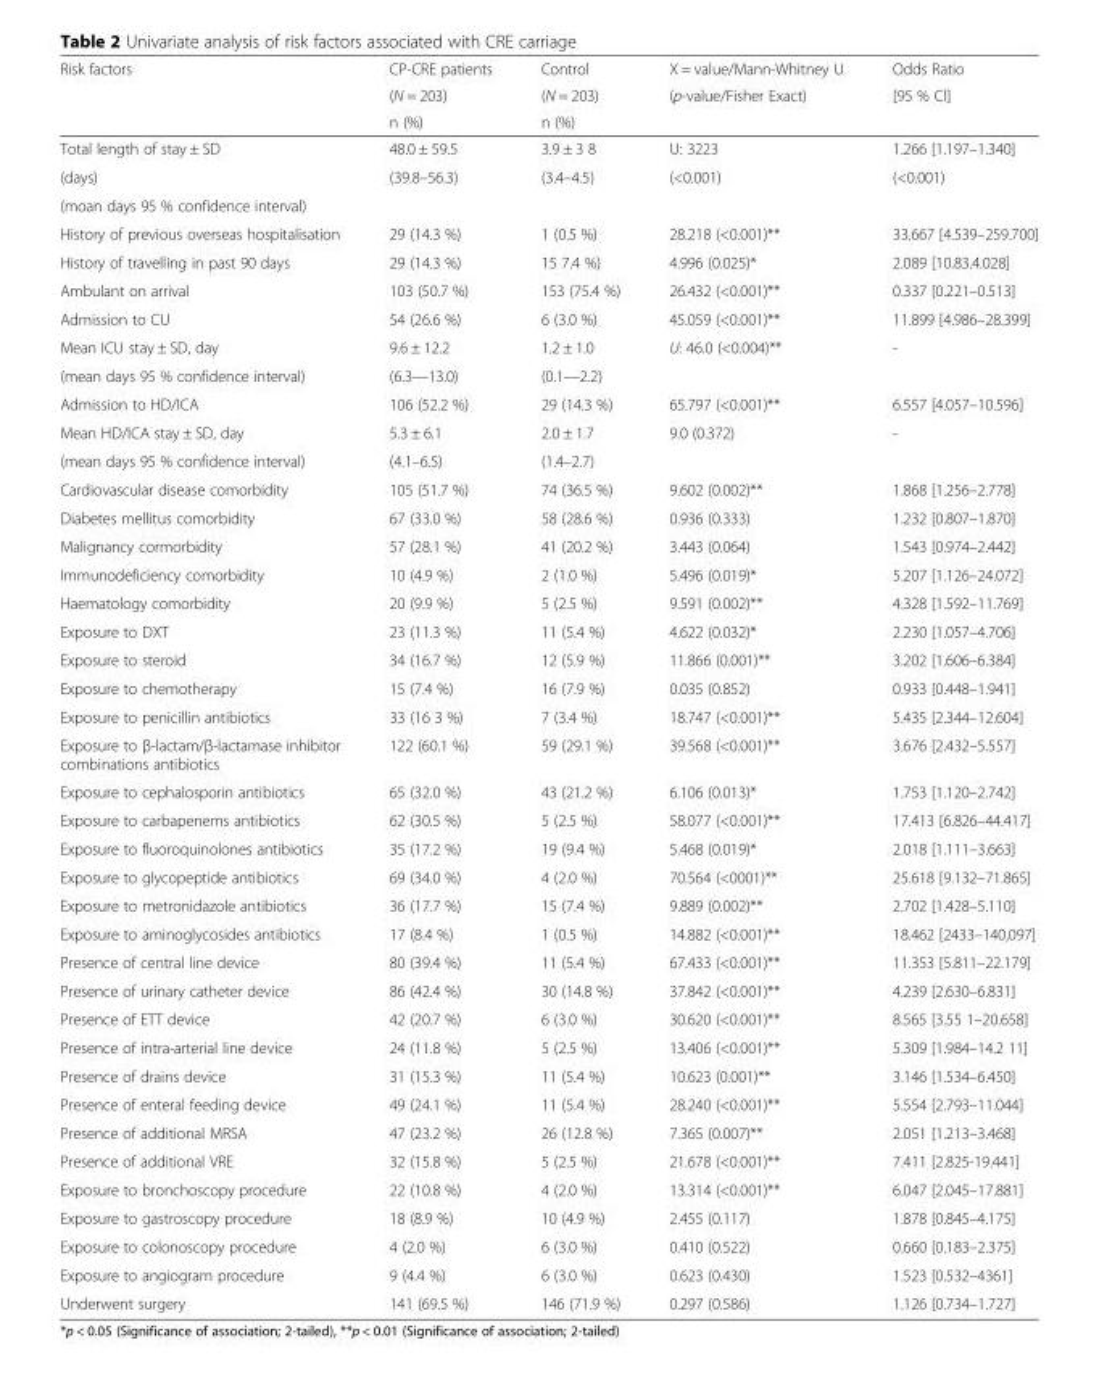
<table><thead><tr><td rowspan="3">Risk factors</td><td rowspan="3">CP-CRE patients (N = 203) n (%)</td><td rowspan="3">Control (N = 203) n (%)</td><td rowspan="3">X = value/Mann-Whitney U (p-value/Fisher Exact)</td><td rowspan="3">Odds Ratio [95 % Cl]</td></tr><tr></tr><tr></tr></thead><tbody><tr><td>Total length of stay ± SD</td><td>48.0 ± 59.5</td><td>3.9 ± 3 8</td><td>U: 3223</td><td>1.266 [1.197–1.340]</td></tr><tr><td>(days)</td><td>(39.8–56.3)</td><td>(3.4–4.5)</td><td>(&lt;0.001)</td><td>(&lt;0.001)</td></tr><tr><td colspan="5">(moan days 95 % confidence interval)</td></tr><tr><td>History of previous overseas hospitalisation</td><td>29 (14.3 %)</td><td>1 (0.5 %)</td><td>28.218 (&lt;0.001)**</td><td>33.667 [4.539–259.700]</td></tr><tr><td>History of travelling in past 90 days</td><td>29 (14.3 %)</td><td>15 7.4 %)</td><td>4.996 (0.025)*</td><td>2.089 [10.83.4.028]</td></tr><tr><td>Ambulant on arrival</td><td>103 (50.7 %)</td><td>153 (75.4 %)</td><td>26.432 (&lt;0.001)**</td><td>0.337 [0.221–0.513]</td></tr><tr><td>Admission to CU</td><td>54 (26.6 %)</td><td>6 (3.0 %)</td><td>45.059 (&lt;0.001)**</td><td>11.899 [4.986–28.399]</td></tr><tr><td>Mean ICU stay ± SD, day</td><td>9.6 ± 12.2</td><td>1.2 ± 1.0</td><td>U: 46.0 (&lt;0.004)**</td><td>-</td></tr><tr><td>(mean days 95 % confidence interval)</td><td>(6.3—13.0)</td><td>(0.1—2.2)</td><td></td><td></td></tr><tr><td>Admission to HD/ICA</td><td>106 (52.2 %)</td><td>29 (14.3 %)</td><td>65.797 (&lt;0.001)**</td><td>6.557 [4.057–10.596]</td></tr><tr><td>Mean HD/ICA stay ± SD, day</td><td>5.3 ± 6.1</td><td>2.0 ± 1.7</td><td>9.0 (0.372)</td><td>-</td></tr><tr><td>(mean days 95 % confidence interval)</td><td>(4.1–6.5)</td><td>(1.4–2.7)</td><td></td><td></td></tr><tr><td>Cardiovascular disease comorbidity</td><td>105 (51.7 %)</td><td>74 (36.5 %)</td><td>9.602 (0.002)**</td><td>1.868 [1.256–2.778]</td></tr><tr><td>Diabetes mellitus comorbidity</td><td>67 (33.0 %)</td><td>58 (28.6 %)</td><td>0.936 (0.333)</td><td>1.232 [0.807–1.870]</td></tr><tr><td>Malignancy cormorbidity</td><td>57 (28.1 %)</td><td>41 (20.2 %)</td><td>3.443 (0.064)</td><td>1.543 [0.974–2.442]</td></tr><tr><td>Immunodeficiency comorbidity</td><td>10 (4.9 %)</td><td>2 (1.0 %)</td><td>5.496 (0.019)*</td><td>5.207 [1.126–24.072]</td></tr><tr><td>Haematology comorbidity</td><td>20 (9.9 %)</td><td>5 (2.5 %)</td><td>9.591 (0.002)**</td><td>4.328 [1.592–11.769]</td></tr><tr><td>Exposure to DXT</td><td>23 (11.3 %)</td><td>11 (5.4 %)</td><td>4.622 (0.032)*</td><td>2.230 [1.057–4.706]</td></tr><tr><td>Exposure to steroid</td><td>34 (16.7 %)</td><td>12 (5.9 %)</td><td>11.866 (0.001)**</td><td>3.202 [1.606–6.384]</td></tr><tr><td>Exposure to chemotherapy</td><td>15 (7.4 %)</td><td>16 (7.9 %)</td><td>0.035 (0.852)</td><td>0.933 [0.448–1.941]</td></tr><tr><td>Exposure to penicillin antibiotics</td><td>33 (16 3 %)</td><td>7 (3.4 %)</td><td>18.747 (&lt;0.001)**</td><td>5.435 [2.344–12.604]</td></tr><tr><td>Exposure to β-lactam/β-lactamase inhibitor combinations antibiotics</td><td>122 (60.1 %)</td><td>59 (29.1 %)</td><td>39.568 (&lt;0.001)**</td><td>3.676 [2.432–5.557]</td></tr><tr><td>Exposure to cephalosporin antibiotics</td><td>65 (32.0 %)</td><td>43 (21.2 %)</td><td>6.106 (0.013)*</td><td>1.753 [1.120–2.742]</td></tr><tr><td>Exposure to carbapenems antibiotics</td><td>62 (30.5 %)</td><td>5 (2.5 %)</td><td>58.077 (&lt;0.001)**</td><td>17.413 [6.826–44.417]</td></tr><tr><td>Exposure to fluoroquinolones antibiotics</td><td>35 (17.2 %)</td><td>19 (9.4 %)</td><td>5.468 (0.019)*</td><td>2.018 [1.111–3.663]</td></tr><tr><td>Exposure to glycopeptide antibiotics</td><td>69 (34.0 %)</td><td>4 (2.0 %)</td><td>70.564 (&lt;0001)**</td><td>25.618 [9.132–71.865]</td></tr><tr><td>Exposure to metronidazole antibiotics</td><td>36 (17.7 %)</td><td>15 (7.4 %)</td><td>9.889 (0.002)**</td><td>2.702 [1.428–5.110]</td></tr><tr><td>Exposure to aminoglycosides antibiotics</td><td>17 (8.4 %)</td><td>1 (0.5 %)</td><td>14.882 (&lt;0.001)**</td><td>18.462 [2433–140,097]</td></tr><tr><td>Presence of central line device</td><td>80 (39.4 %)</td><td>11 (5.4 %)</td><td>67.433 (&lt;0.001)**</td><td>11.353 [5.811–22.179]</td></tr><tr><td>Presence of urinary catheter device</td><td>86 (42.4 %)</td><td>30 (14.8 %)</td><td>37.842 (&lt;0.001)**</td><td>4.239 [2.630–6.831]</td></tr><tr><td>Presence of ETT device</td><td>42 (20.7 %)</td><td>6 (3.0 %)</td><td>30.620 (&lt;0.001)**</td><td>8.565 [3.55 1–20.658]</td></tr><tr><td>Presence of intra-arterial line device</td><td>24 (11.8 %)</td><td>5 (2.5 %)</td><td>13.406 (&lt;0.001)**</td><td>5.309 [1.984–14.2 11]</td></tr><tr><td>Presence of drains device</td><td>31 (15.3 %)</td><td>11 (5.4 %)</td><td>10.623 (0.001)**</td><td>3.146 [1.534–6.450]</td></tr><tr><td>Presence of enteral feeding device</td><td>49 (24.1 %)</td><td>11 (5.4 %)</td><td>28.240 (&lt;0.001)**</td><td>5.554 [2.793–11.044]</td></tr><tr><td>Presence of additional MRSA</td><td>47 (23.2 %)</td><td>26 (12.8 %)</td><td>7.365 (0.007)**</td><td>2.051 [1.213–3.468]</td></tr><tr><td>Presence of additional VRE</td><td>32 (15.8 %)</td><td>5 (2.5 %)</td><td>21.678 (&lt;0.001)**</td><td>7.411 [2.825-19.441]</td></tr><tr><td>Exposure to bronchoscopy procedure</td><td>22 (10.8 %)</td><td>4 (2.0 %)</td><td>13.314 (&lt;0.001)**</td><td>6.047 [2.045–17.881]</td></tr><tr><td>Exposure to gastroscopy procedure</td><td>18 (8.9 %)</td><td>10 (4.9 %)</td><td>2.455 (0.117)</td><td>1.878 [0.845–4.175]</td></tr><tr><td>Exposure to colonoscopy procedure</td><td>4 (2.0 %)</td><td>6 (3.0 %)</td><td>0.410 (0.522)</td><td>0.660 [0.183–2.375]</td></tr><tr><td>Exposure to angiogram procedure</td><td>9 (4.4 %)</td><td>6 (3.0 %)</td><td>0.623 (0.430)</td><td>1.523 [0.532–4361]</td></tr><tr><td>Underwent surgery</td><td>141 (69.5 %)</td><td>146 (71.9 %)</td><td>0.297 (0.586)</td><td>1.126 [0.734–1.727]</td></tr></tbody></table>